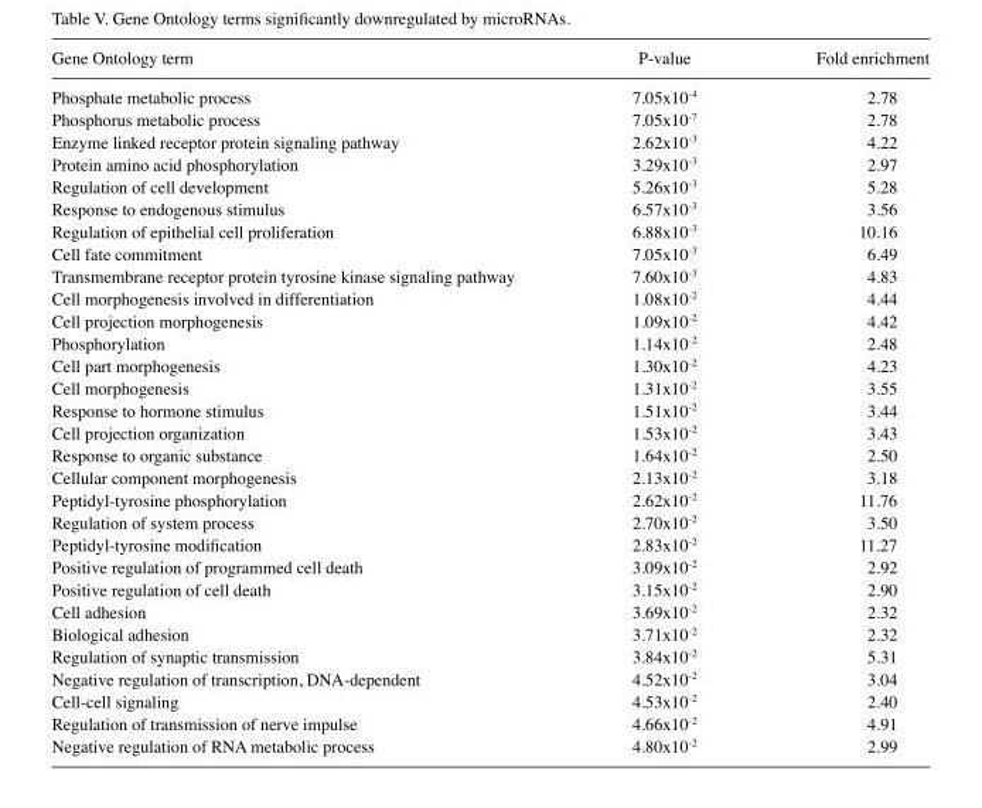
<table><thead><tr><td>Gene Ontology term</td><td>P-value</td><td>Fold enrichment</td></tr></thead><tbody><tr><td>Phosphate metabolic process</td><td>7.05x10-4</td><td>2.78</td></tr><tr><td>Phosphorus metabolic process</td><td>7.05x10-7</td><td>2.78</td></tr><tr><td>Enzyme linked receptor protein signaling pathway</td><td>2.62x10-3</td><td>4.22</td></tr><tr><td>Protein amino acid phosphorylation</td><td>3.29x10-3</td><td>2.97</td></tr><tr><td>Regulation of cell development</td><td>5.26x10-3</td><td>5.28</td></tr><tr><td>Response to endogenous stimulus</td><td>6.57x10-3</td><td>3.56</td></tr><tr><td>Regulation of epithelial cell proliferation</td><td>6.88x10-3</td><td>10.16</td></tr><tr><td>Cell fate commitment</td><td>7.05x10-3</td><td>6.49</td></tr><tr><td>Transmembrane receptor protein tyrosine kinase signaling pathway</td><td>7.60x10-3</td><td>4.83</td></tr><tr><td>Cell morphogenesis involved in differentiation</td><td>1.08x10-2</td><td>4.44</td></tr><tr><td>Cell projection morphogenesis</td><td>1.09x10-2</td><td>4.42</td></tr><tr><td>Phosphorylation</td><td>1.14x10-2</td><td>2.48</td></tr><tr><td>Cell part morphogenesis</td><td>1.30x10-2</td><td>4.23</td></tr><tr><td>Cell morphogenesis</td><td>1.31x10-2</td><td>3.55</td></tr><tr><td>Response to hormone stimulus</td><td>1.51x10-2</td><td>3.44</td></tr><tr><td>Cell projection organization</td><td>1.53x10-2</td><td>3.43</td></tr><tr><td>Response to organic substance</td><td>1.64x10-2</td><td>2.50</td></tr><tr><td>Cellular component morphogenesis</td><td>2.13x10-2</td><td>3.18</td></tr><tr><td>Peptidyl-tyrosine phosphorylation</td><td>2.62x10-2</td><td>11.76</td></tr><tr><td>Regulation of system process</td><td>2.70x10-2</td><td>3.50</td></tr><tr><td>Peptidyl‑tyrosine modification</td><td>2.83x10-2</td><td>11.27</td></tr><tr><td>Positive regulation of programmed cell death</td><td>3.09x10-2</td><td>2.92</td></tr><tr><td>Positive regulation of cell death</td><td>3.15x10-2</td><td>2.90</td></tr><tr><td>Cell adhesion</td><td>3.69x10-2</td><td>2.32</td></tr><tr><td>Biological adhesion</td><td>3.71x10-2</td><td>2.32</td></tr><tr><td>Regulation of synaptic transmission</td><td>3.84x10-2</td><td>5.31</td></tr><tr><td>Negative regulation of transcription, DNA-dependent</td><td>4.52x10-2</td><td>3.04</td></tr><tr><td>Cell-cell signaling</td><td>4.53x10-2</td><td>2.40</td></tr><tr><td>Regulation of transmission of nerve impulse</td><td>4.66x10-2</td><td>4.91</td></tr><tr><td>Negative regulation of RNA metabolic process</td><td>4.80x10-2</td><td>2.99</td></tr></tbody></table>